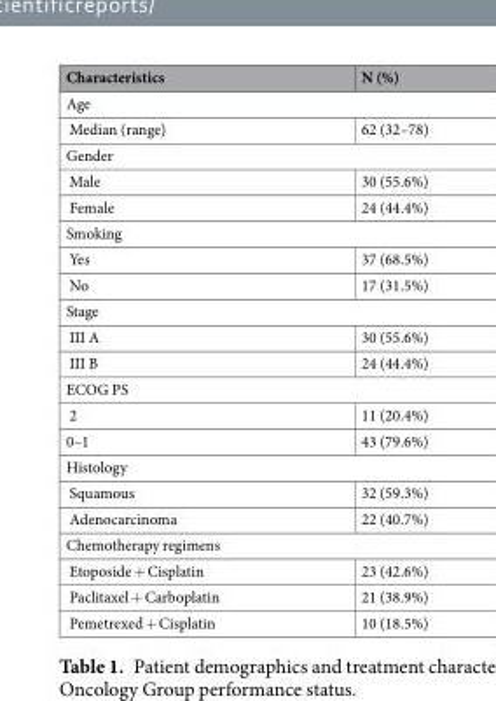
<table><thead><tr><td>Characteristics</td><td>N (%)</td></tr></thead><tbody><tr><td colspan="2">Age</td></tr><tr><td>Median (range)</td><td>62 (32–78)</td></tr><tr><td colspan="2">Gender</td></tr><tr><td>Male</td><td>30 (55.6%)</td></tr><tr><td>Female</td><td>24 (44.4%)</td></tr><tr><td colspan="2">Smoking</td></tr><tr><td>Yes</td><td>37 (68.5%)</td></tr><tr><td>No</td><td>17 (31.5%)</td></tr><tr><td colspan="2">Stage</td></tr><tr><td>III A</td><td>30 (55.6%)</td></tr><tr><td>III B</td><td>24 (44.4%)</td></tr><tr><td colspan="2">ECOG PS</td></tr><tr><td>2</td><td>11 (20.4%)</td></tr><tr><td>0–1</td><td>43 (79.6%)</td></tr><tr><td colspan="2">Histology</td></tr><tr><td>Squamous</td><td>32 (59.3%)</td></tr><tr><td>Adenocarcinoma</td><td>22 (40.7%)</td></tr><tr><td colspan="2">Chemotherapy regimens</td></tr><tr><td>Etoposide + Cisplatin</td><td>23 (42.6%)</td></tr><tr><td>Paclitaxel + Carboplatin</td><td>21 (38.9%)</td></tr><tr><td>Pemetrexed + Cisplatin</td><td>10 (18.5%)</td></tr></tbody></table>